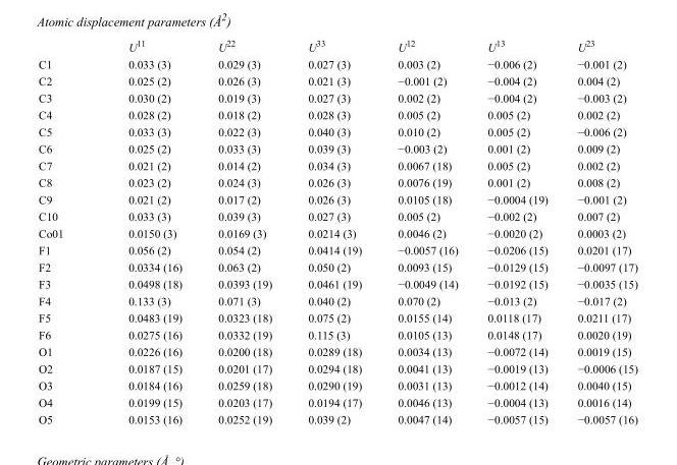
<table><thead><tr><td></td><td>U<sup>11</sup></td><td>U<sup>22</sup></td><td>U<sup>33</sup></td><td>U<sup>12</sup></td><td>U<sup>13</sup></td><td>U<sup>23</sup></td></tr></thead><tbody><tr><td>C1</td><td>0.033 (3)</td><td>0.029 (3)</td><td>0.027 (3)</td><td>0.003 (2)</td><td>−0.006 (2)</td><td>−0.001 (2)</td></tr><tr><td>C2</td><td>0.025 (2)</td><td>0.026 (3)</td><td>0.021 (3)</td><td>−0.001 (2)</td><td>−0.004 (2)</td><td>0.004 (2)</td></tr><tr><td>C3</td><td>0.030 (2)</td><td>0.019 (3)</td><td>0.027 (3)</td><td>0.002 (2)</td><td>−0.004 (2)</td><td>−0.003 (2)</td></tr><tr><td>C4</td><td>0.028 (2)</td><td>0.018 (2)</td><td>0.028 (3)</td><td>0.005 (2)</td><td>0.005 (2)</td><td>0.002 (2)</td></tr><tr><td>C5</td><td>0.033 (3)</td><td>0.022 (3)</td><td>0.040 (3)</td><td>0.010 (2)</td><td>0.005 (2)</td><td>−0.006 (2)</td></tr><tr><td>C6</td><td>0.025 (2)</td><td>0.033 (3)</td><td>0.039 (3)</td><td>−0.003 (2)</td><td>0.001 (2)</td><td>0.009 (2)</td></tr><tr><td>C7</td><td>0.021 (2)</td><td>0.014 (2)</td><td>0.034 (3)</td><td>0.0067 (18)</td><td>0.005 (2)</td><td>0.002 (2)</td></tr><tr><td>C8</td><td>0.023 (2)</td><td>0.024 (3)</td><td>0.026 (3)</td><td>0.0076 (19)</td><td>0.001 (2)</td><td>0.008 (2)</td></tr><tr><td>C9</td><td>0.021 (2)</td><td>0.017 (2)</td><td>0.026 (3)</td><td>0.0105 (18)</td><td>−0.0004 (19)</td><td>−0.001 (2)</td></tr><tr><td>C10</td><td>0.033 (3)</td><td>0.039 (3)</td><td>0.027 (3)</td><td>0.005 (2)</td><td>−0.002 (2)</td><td>0.007 (2)</td></tr><tr><td>Co01</td><td>0.0150 (3)</td><td>0.0169 (3)</td><td>0.0214 (3)</td><td>0.0046 (2)</td><td>−0.0020 (2)</td><td>0.0003 (2)</td></tr><tr><td>F1</td><td>0.056 (2)</td><td>0.054 (2)</td><td>0.0414 (19)</td><td>−0.0057 (16)</td><td>−0.0206 (15)</td><td>0.0201 (17)</td></tr><tr><td>F2</td><td>0.0334 (16)</td><td>0.063 (2)</td><td>0.050 (2)</td><td>0.0093 (15)</td><td>−0.0129 (15)</td><td>−0.0097 (17)</td></tr><tr><td>F3</td><td>0.0498 (18)</td><td>0.0393 (19)</td><td>0.0461 (19)</td><td>−0.0049 (14)</td><td>−0.0192 (15)</td><td>−0.0035 (15)</td></tr><tr><td>F4</td><td>0.133 (3)</td><td>0.071 (3)</td><td>0.040 (2)</td><td>0.070 (2)</td><td>−0.013 (2)</td><td>−0.017 (2)</td></tr><tr><td>F5</td><td>0.0483 (19)</td><td>0.0323 (18)</td><td>0.075 (2)</td><td>0.0155 (14)</td><td>0.0118 (17)</td><td>0.0211 (17)</td></tr><tr><td>F6</td><td>0.0275 (16)</td><td>0.0332 (19)</td><td>0.115 (3)</td><td>0.0105 (13)</td><td>0.0148 (17)</td><td>0.0020 (19)</td></tr><tr><td>O1</td><td>0.0226 (16)</td><td>0.0200 (18)</td><td>0.0289 (18)</td><td>0.0034 (13)</td><td>−0.0072 (14)</td><td>0.0019 (15)</td></tr><tr><td>O2</td><td>0.0187 (15)</td><td>0.0201 (17)</td><td>0.0294 (18)</td><td>0.0041 (13)</td><td>−0.0019 (13)</td><td>−0.0006 (15)</td></tr><tr><td>O3</td><td>0.0184 (16)</td><td>0.0259 (18)</td><td>0.0290 (19)</td><td>0.0031 (13)</td><td>−0.0012 (14)</td><td>0.0040 (15)</td></tr><tr><td>O4</td><td>0.0199 (15)</td><td>0.0203 (17)</td><td>0.0194 (17)</td><td>0.0046 (13)</td><td>−0.0004 (13)</td><td>0.0016 (14)</td></tr><tr><td>O5</td><td>0.0153 (16)</td><td>0.0252 (19)</td><td>0.039 (2)</td><td>0.0047 (14)</td><td>−0.0057 (15)</td><td>−0.0057 (16)</td></tr></tbody></table>